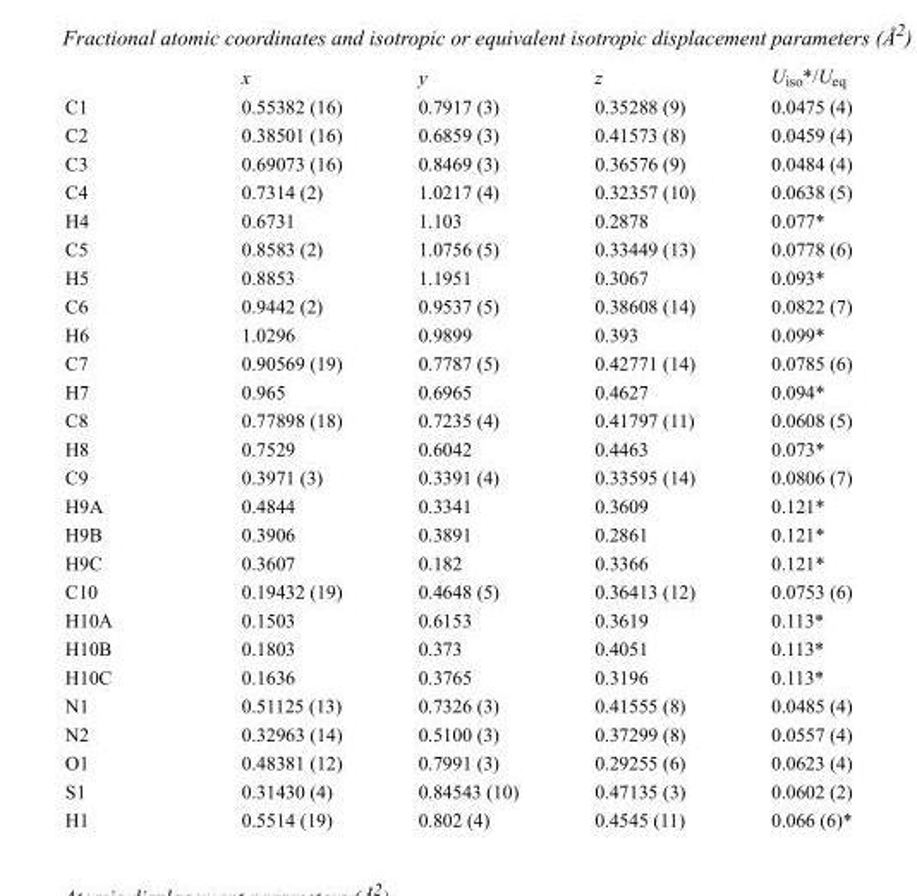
<table><thead><tr><td></td><td>x</td><td>y</td><td>z</td><td>U<sub>iso</sub>*/U<sub>eq</sub></td></tr></thead><tbody><tr><td>C1</td><td>0.55382 (16)</td><td>0.7917 (3)</td><td>0.35288 (9)</td><td>0.0475 (4)</td></tr><tr><td>C2</td><td>0.38501 (16)</td><td>0.6859 (3)</td><td>0.41573 (8)</td><td>0.0459 (4)</td></tr><tr><td>C3</td><td>0.69073 (16)</td><td>0.8469 (3)</td><td>0.36576 (9)</td><td>0.0484 (4)</td></tr><tr><td>C4</td><td>0.7314 (2)</td><td>1.0217 (4)</td><td>0.32357 (10)</td><td>0.0638 (5)</td></tr><tr><td>H4</td><td>0.6731</td><td>1.103</td><td>0.2878</td><td>0.077*</td></tr><tr><td>C5</td><td>0.8583 (2)</td><td>1.0756 (5)</td><td>0.33449 (13)</td><td>0.0778 (6)</td></tr><tr><td>H5</td><td>0.8853</td><td>1.1951</td><td>0.3067</td><td>0.093*</td></tr><tr><td>C6</td><td>0.9442 (2)</td><td>0.9537 (5)</td><td>0.38608 (14)</td><td>0.0822 (7)</td></tr><tr><td>H6</td><td>1.0296</td><td>0.9899</td><td>0.393</td><td>0.099*</td></tr><tr><td>C7</td><td>0.90569 (19)</td><td>0.7787 (5)</td><td>0.42771 (14)</td><td>0.0785 (6)</td></tr><tr><td>H7</td><td>0.965</td><td>0.6965</td><td>0.4627</td><td>0.094*</td></tr><tr><td>C8</td><td>0.77898 (18)</td><td>0.7235 (4)</td><td>0.41797 (11)</td><td>0.0608 (5)</td></tr><tr><td>H8</td><td>0.7529</td><td>0.6042</td><td>0.4463</td><td>0.073*</td></tr><tr><td>C9</td><td>0.3971 (3)</td><td>0.3391 (4)</td><td>0.33595 (14)</td><td>0.0806 (7)</td></tr><tr><td>H9A</td><td>0.4844</td><td>0.3341</td><td>0.3609</td><td>0.121*</td></tr><tr><td>H9B</td><td>0.3906</td><td>0.3891</td><td>0.2861</td><td>0.121*</td></tr><tr><td>H9C</td><td>0.3607</td><td>0.182</td><td>0.3366</td><td>0.121*</td></tr><tr><td>C10</td><td>0.19432 (19)</td><td>0.4648 (5)</td><td>0.36413 (12)</td><td>0.0753 (6)</td></tr><tr><td>H10A</td><td>0.1503</td><td>0.6153</td><td>0.3619</td><td>0.113*</td></tr><tr><td>H10B</td><td>0.1803</td><td>0.373</td><td>0.4051</td><td>0.113*</td></tr><tr><td>H10C</td><td>0.1636</td><td>0.3765</td><td>0.3196</td><td>0.113*</td></tr><tr><td>N1</td><td>0.51125 (13)</td><td>0.7326 (3)</td><td>0.41555 (8)</td><td>0.0485 (4)</td></tr><tr><td>N2</td><td>0.32963 (14)</td><td>0.5100 (3)</td><td>0.37299 (8)</td><td>0.0557 (4)</td></tr><tr><td>O1</td><td>0.48381 (12)</td><td>0.7991 (3)</td><td>0.29255 (6)</td><td>0.0623 (4)</td></tr><tr><td>S1</td><td>0.31430 (4)</td><td>0.84543 (10)</td><td>0.47135 (3)</td><td>0.0602 (2)</td></tr><tr><td>H1</td><td>0.5514 (19)</td><td>0.802 (4)</td><td>0.4545 (11)</td><td>0.066 (6)*</td></tr></tbody></table>